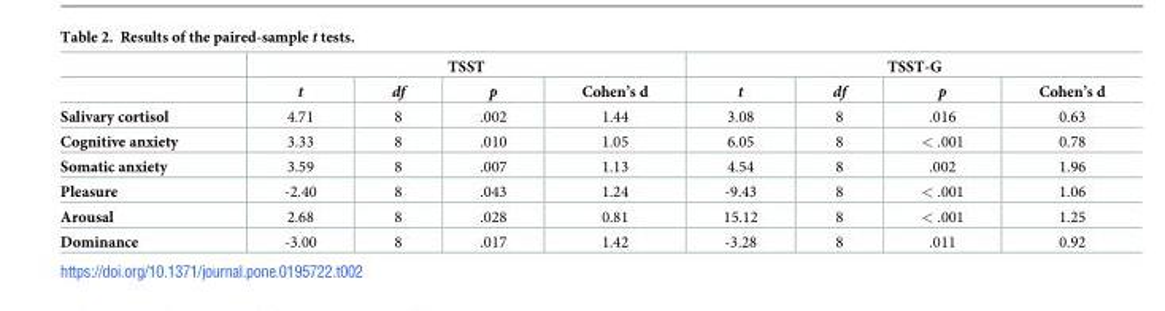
<table><thead><tr><td rowspan="2"></td><td colspan="4">TSST</td><td colspan="4">TSST-G</td></tr><tr><td>t</td><td>df</td><td>p</td><td>Cohen’s d</td><td>t</td><td>df</td><td>p</td><td>Cohen’s d</td></tr></thead><tbody><tr><td>Salivary cortisol</td><td>4.71</td><td>8</td><td>.002</td><td>1.44</td><td>3.08</td><td>8</td><td>.016</td><td>0.63</td></tr><tr><td>Cognitive anxiety</td><td>3.33</td><td>8</td><td>.010</td><td>1.05</td><td>6.05</td><td>8</td><td>&lt; .001</td><td>0.78</td></tr><tr><td>Somatic anxiety</td><td>3.59</td><td>8</td><td>.007</td><td>1.13</td><td>4.54</td><td>8</td><td>.002</td><td>1.96</td></tr><tr><td>Pleasure</td><td>-2.40</td><td>8</td><td>.043</td><td>1.24</td><td>-9.43</td><td>8</td><td>&lt; .001</td><td>1.06</td></tr><tr><td>Arousal</td><td>2.68</td><td>8</td><td>.028</td><td>0.81</td><td>15.12</td><td>8</td><td>&lt; .001</td><td>1.25</td></tr><tr><td>Dominance</td><td>-3.00</td><td>8</td><td>.017</td><td>1.42</td><td>-3.28</td><td>8</td><td>.011</td><td>0.92</td></tr></tbody></table>